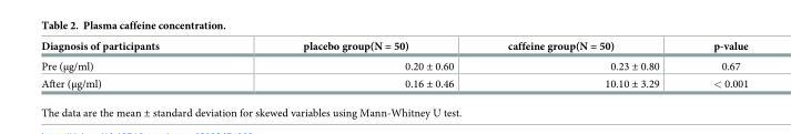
<table><thead><tr><td>Diagnosis of participants</td><td>placebo group(N = 50)</td><td>caffeine group(N = 50)</td><td>p-value</td></tr></thead><tbody><tr><td>Pre (μg/ml)</td><td>0.20 ± 0.60</td><td>0.23 ± 0.80</td><td>0.67</td></tr><tr><td>After (μg/ml)</td><td>0.16 ± 0.46</td><td>10.10 ± 3.29</td><td>&lt; 0.001</td></tr></tbody></table>